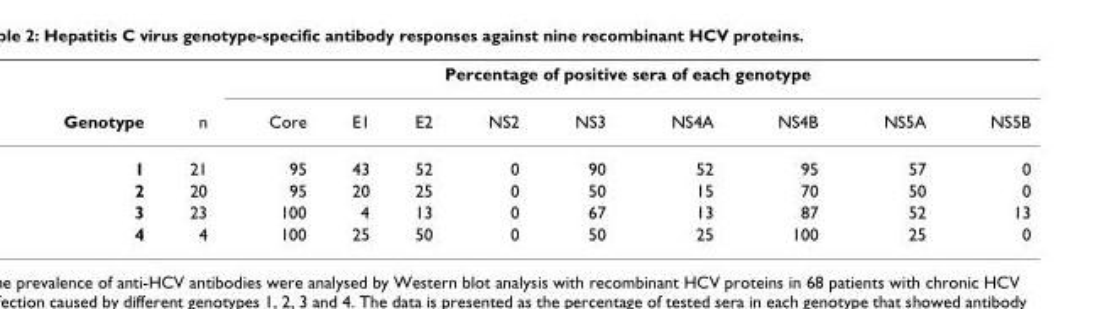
<table><thead><tr><td rowspan="2">Genotype</td><td rowspan="2">n</td><td colspan="9">Percentage of positive sera of each genotype</td></tr><tr><td>Core</td><td>E1</td><td>E2</td><td>NS2</td><td>NS3</td><td>NS4A</td><td>NS4B</td><td>NS5A</td><td>NS5B</td></tr></thead><tbody><tr><td>1</td><td>21</td><td>95</td><td>43</td><td>52</td><td>0</td><td>90</td><td>52</td><td>95</td><td>57</td><td>0</td></tr><tr><td>2</td><td>20</td><td>95</td><td>20</td><td>25</td><td>0</td><td>50</td><td>15</td><td>70</td><td>50</td><td>0</td></tr><tr><td>3</td><td>23</td><td>100</td><td>4</td><td>13</td><td>0</td><td>67</td><td>13</td><td>87</td><td>52</td><td>13</td></tr><tr><td>4</td><td>4</td><td>100</td><td>25</td><td>50</td><td>0</td><td>50</td><td>25</td><td>100</td><td>25</td><td>0</td></tr></tbody></table>